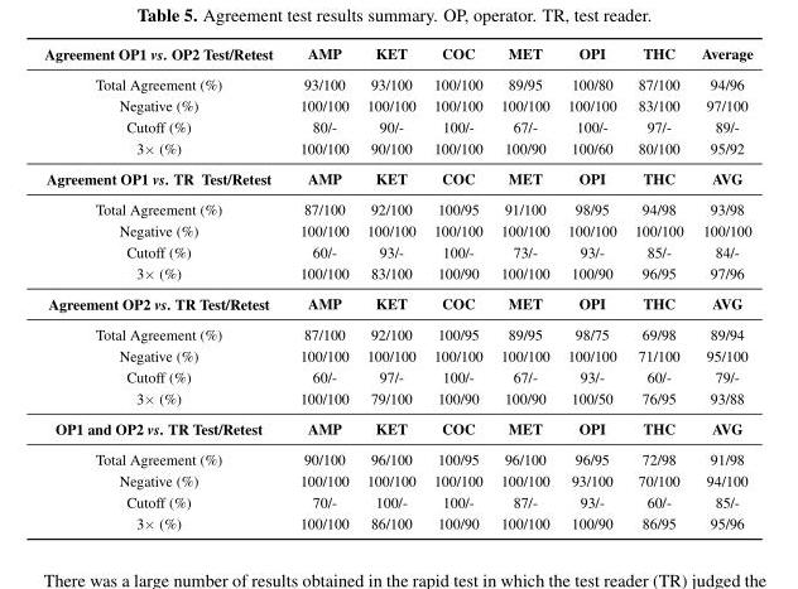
<table><tbody><tr><td>Agreement OP1 vs. OP2 Test/Retest</td><td>AMP</td><td>KET</td><td>COC</td><td>MET</td><td>OPI</td><td>THC</td><td>Average</td></tr><tr><td>Total Agreement (%)</td><td>93/100</td><td>93/100</td><td>100/100</td><td>89/95</td><td>100/80</td><td>87/100</td><td>94/96</td></tr><tr><td>Negative (%)</td><td>100/100</td><td>100/100</td><td>100/100</td><td>100/100</td><td>100/100</td><td>83/100</td><td>97/100</td></tr><tr><td>Cutoff (%)</td><td>80/-</td><td>90/-</td><td>100/-</td><td>67/-</td><td>100/-</td><td>97/-</td><td>89/-</td></tr><tr><td>3× (%)</td><td>100/100</td><td>90/100</td><td>100/100</td><td>100/90</td><td>100/60</td><td>80/100</td><td>95/92</td></tr><tr><td>Agreement OP1 vs. TR Test/Retest</td><td>AMP</td><td>KET</td><td>COC</td><td>MET</td><td>OPI</td><td>THC</td><td>AVG</td></tr><tr><td>Total Agreement (%)</td><td>87/100</td><td>92/100</td><td>100/95</td><td>91/100</td><td>98/95</td><td>94/98</td><td>93/98</td></tr><tr><td>Negative (%)</td><td>100/100</td><td>100/100</td><td>100/100</td><td>100/100</td><td>100/100</td><td>100/100</td><td>100/100</td></tr><tr><td>Cutoff (%)</td><td>60/-</td><td>93/-</td><td>100/-</td><td>73/-</td><td>93/-</td><td>85/-</td><td>84/-</td></tr><tr><td>3× (%)</td><td>100/100</td><td>83/100</td><td>100/90</td><td>100/100</td><td>100/90</td><td>96/95</td><td>97/96</td></tr><tr><td>Agreement OP2 vs. TR Test/Retest</td><td>AMP</td><td>KET</td><td>COC</td><td>MET</td><td>OPI</td><td>THC</td><td>AVG</td></tr><tr><td>Total Agreement (%)</td><td>87/100</td><td>92/100</td><td>100/95</td><td>89/95</td><td>98/75</td><td>69/98</td><td>89/94</td></tr><tr><td>Negative (%)</td><td>100/100</td><td>100/100</td><td>100/100</td><td>100/100</td><td>100/100</td><td>71/100</td><td>95/100</td></tr><tr><td>Cutoff (%)</td><td>60/-</td><td>97/-</td><td>100/-</td><td>67/-</td><td>93/-</td><td>60/-</td><td>79/-</td></tr><tr><td>3× (%)</td><td>100/100</td><td>79/100</td><td>100/90</td><td>100/90</td><td>100/50</td><td>76/95</td><td>93/88</td></tr><tr><td>OP1 and OP2 vs. TR Test/Retest</td><td>AMP</td><td>KET</td><td>COC</td><td>MET</td><td>OPI</td><td>THC</td><td>AVG</td></tr><tr><td>Total Agreement (%)</td><td>90/100</td><td>96/100</td><td>100/95</td><td>96/100</td><td>96/95</td><td>72/98</td><td>91/98</td></tr><tr><td>Negative (%)</td><td>100/100</td><td>100/100</td><td>100/100</td><td>100/100</td><td>93/100</td><td>70/100</td><td>94/100</td></tr><tr><td>Cutoff (%)</td><td>70/-</td><td>100/-</td><td>100/-</td><td>87/-</td><td>93/-</td><td>60/-</td><td>85/-</td></tr><tr><td>3× (%)</td><td>100/100</td><td>86/100</td><td>100/90</td><td>100/100</td><td>100/90</td><td>86/95</td><td>95/96</td></tr></tbody></table>